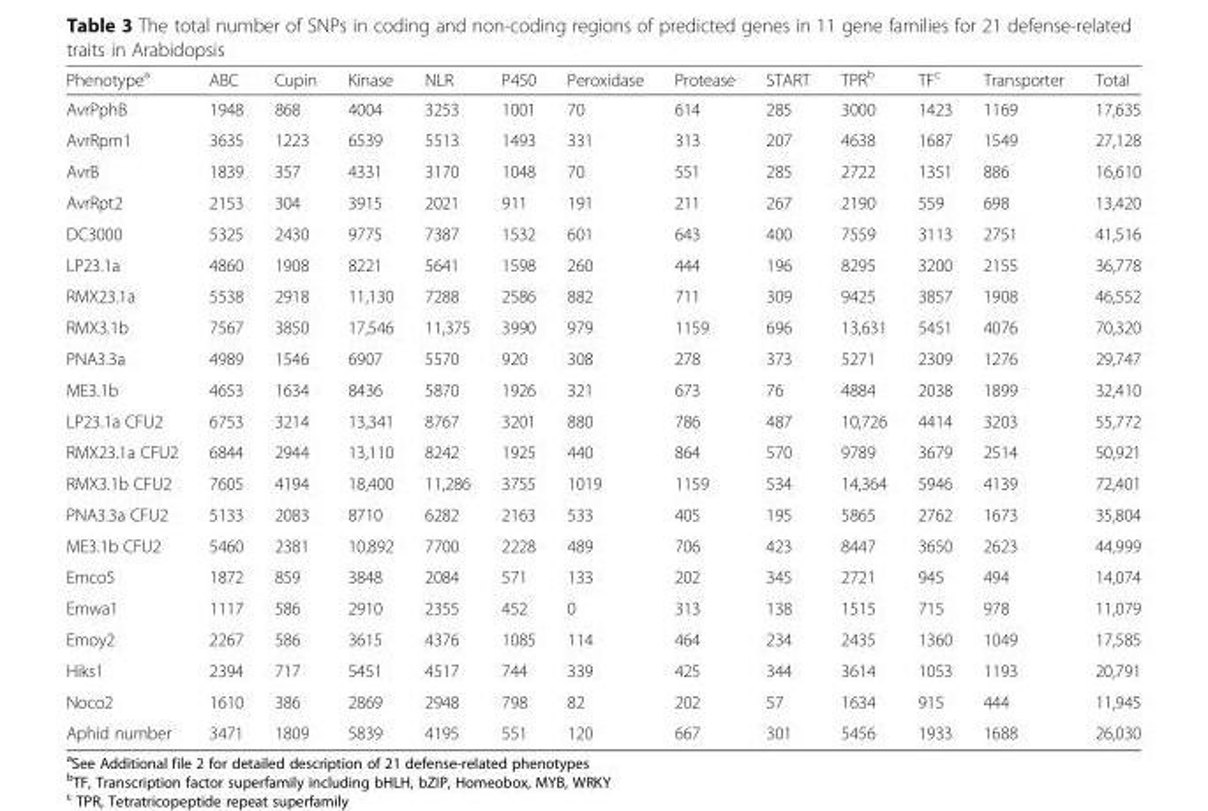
<table><thead><tr><td>Phenotype<sup>a</sup></td><td>ABC</td><td>Cupin</td><td>Kinase</td><td>NLR</td><td>P450</td><td>Peroxidase</td><td>Protease</td><td>START</td><td>TPR<sup>b</sup></td><td>TF<sup>c</sup></td><td>Transporter</td><td>Total</td></tr></thead><tbody><tr><td>AvrPphB</td><td>1948</td><td>868</td><td>4004</td><td>3253</td><td>1001</td><td>70</td><td>614</td><td>285</td><td>3000</td><td>1423</td><td>1169</td><td>17,635</td></tr><tr><td>AvrRpm1</td><td>3635</td><td>1223</td><td>6539</td><td>5513</td><td>1493</td><td>331</td><td>313</td><td>207</td><td>4638</td><td>1687</td><td>1549</td><td>27,128</td></tr><tr><td>AvrB</td><td>1839</td><td>357</td><td>4331</td><td>3170</td><td>1048</td><td>70</td><td>551</td><td>285</td><td>2722</td><td>1351</td><td>886</td><td>16,610</td></tr><tr><td>AvrRpt2</td><td>2153</td><td>304</td><td>3915</td><td>2021</td><td>911</td><td>191</td><td>211</td><td>267</td><td>2190</td><td>559</td><td>698</td><td>13,420</td></tr><tr><td>DC3000</td><td>5325</td><td>2430</td><td>9775</td><td>7387</td><td>1532</td><td>601</td><td>643</td><td>400</td><td>7559</td><td>3113</td><td>2751</td><td>41,516</td></tr><tr><td>LP23.1a</td><td>4860</td><td>1908</td><td>8221</td><td>5641</td><td>1598</td><td>260</td><td>444</td><td>196</td><td>8295</td><td>3200</td><td>2155</td><td>36,778</td></tr><tr><td>RMX23.1a</td><td>5538</td><td>2918</td><td>11,130</td><td>7288</td><td>2586</td><td>882</td><td>711</td><td>309</td><td>9425</td><td>3857</td><td>1908</td><td>46,552</td></tr><tr><td>RMX3.1b</td><td>7567</td><td>3850</td><td>17,546</td><td>11,375</td><td>3990</td><td>979</td><td>1159</td><td>696</td><td>13,631</td><td>5451</td><td>4076</td><td>70,320</td></tr><tr><td>PNA3.3a</td><td>4989</td><td>1546</td><td>6907</td><td>5570</td><td>920</td><td>308</td><td>278</td><td>373</td><td>5271</td><td>2309</td><td>1276</td><td>29,747</td></tr><tr><td>ME3.1b</td><td>4653</td><td>1634</td><td>8436</td><td>5870</td><td>1926</td><td>321</td><td>673</td><td>76</td><td>4884</td><td>2038</td><td>1899</td><td>32,410</td></tr><tr><td>LP23.1a CFU2</td><td>6753</td><td>3214</td><td>13,341</td><td>8767</td><td>3201</td><td>880</td><td>786</td><td>487</td><td>10,726</td><td>4414</td><td>3203</td><td>55,772</td></tr><tr><td>RMX23.1a CFU2</td><td>6844</td><td>2944</td><td>13,110</td><td>8242</td><td>1925</td><td>440</td><td>864</td><td>570</td><td>9789</td><td>3679</td><td>2514</td><td>50,921</td></tr><tr><td>RMX3.1b CFU2</td><td>7605</td><td>4194</td><td>18,400</td><td>11,286</td><td>3755</td><td>1019</td><td>1159</td><td>534</td><td>14,364</td><td>5946</td><td>4139</td><td>72,401</td></tr><tr><td>PNA3.3a CFU2</td><td>5133</td><td>2083</td><td>8710</td><td>6282</td><td>2163</td><td>533</td><td>405</td><td>195</td><td>5865</td><td>2762</td><td>1673</td><td>35,804</td></tr><tr><td>ME3.1b CFU2</td><td>5460</td><td>2381</td><td>10,892</td><td>7700</td><td>2228</td><td>489</td><td>706</td><td>423</td><td>8447</td><td>3650</td><td>2623</td><td>44,999</td></tr><tr><td>Emco5</td><td>1872</td><td>859</td><td>3848</td><td>2084</td><td>571</td><td>133</td><td>202</td><td>345</td><td>2721</td><td>945</td><td>494</td><td>14,074</td></tr><tr><td>Emwa1</td><td>1117</td><td>586</td><td>2910</td><td>2355</td><td>452</td><td>0</td><td>313</td><td>138</td><td>1515</td><td>715</td><td>978</td><td>11,079</td></tr><tr><td>Emoy2</td><td>2267</td><td>586</td><td>3615</td><td>4376</td><td>1085</td><td>114</td><td>464</td><td>234</td><td>2435</td><td>1360</td><td>1049</td><td>17,585</td></tr><tr><td>Hiks1</td><td>2394</td><td>717</td><td>5451</td><td>4517</td><td>744</td><td>339</td><td>425</td><td>344</td><td>3614</td><td>1053</td><td>1193</td><td>20,791</td></tr><tr><td>Noco2</td><td>1610</td><td>386</td><td>2869</td><td>2948</td><td>798</td><td>82</td><td>202</td><td>57</td><td>1634</td><td>915</td><td>444</td><td>11,945</td></tr><tr><td>Aphid number</td><td>3471</td><td>1809</td><td>5839</td><td>4195</td><td>551</td><td>120</td><td>667</td><td>301</td><td>5456</td><td>1933</td><td>1688</td><td>26,030</td></tr></tbody></table>